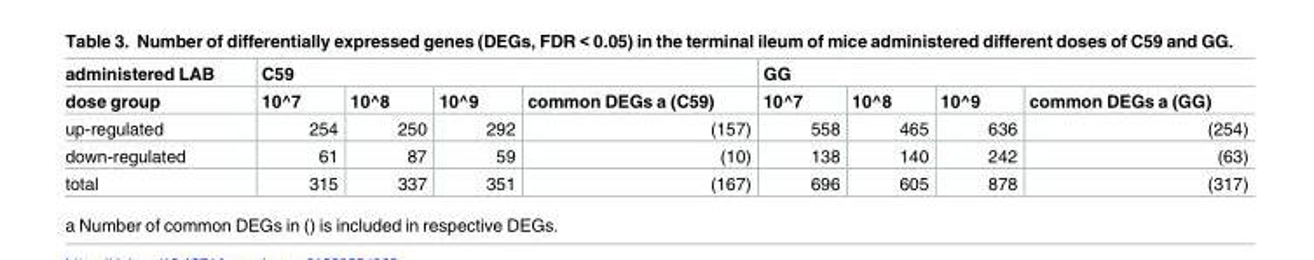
<table><thead><tr><td rowspan="2">administered LAB dose group</td><td colspan="4">C59</td><td colspan="4">GG</td></tr><tr><td>10^7</td><td>10^8</td><td>10^9</td><td>common DEGs a (C59)</td><td>10^7</td><td>10^8</td><td>10^9</td><td>common DEGs a (GG)</td></tr></thead><tbody><tr><td>up-regulated</td><td>254</td><td>250</td><td>292</td><td>(157)</td><td>558</td><td>465</td><td>636</td><td>(254)</td></tr><tr><td>down-regulated</td><td>61</td><td>87</td><td>59</td><td>(10)</td><td>138</td><td>140</td><td>242</td><td>(63)</td></tr><tr><td>total</td><td>315</td><td>337</td><td>351</td><td>(167)</td><td>696</td><td>605</td><td>878</td><td>(317)</td></tr></tbody></table>